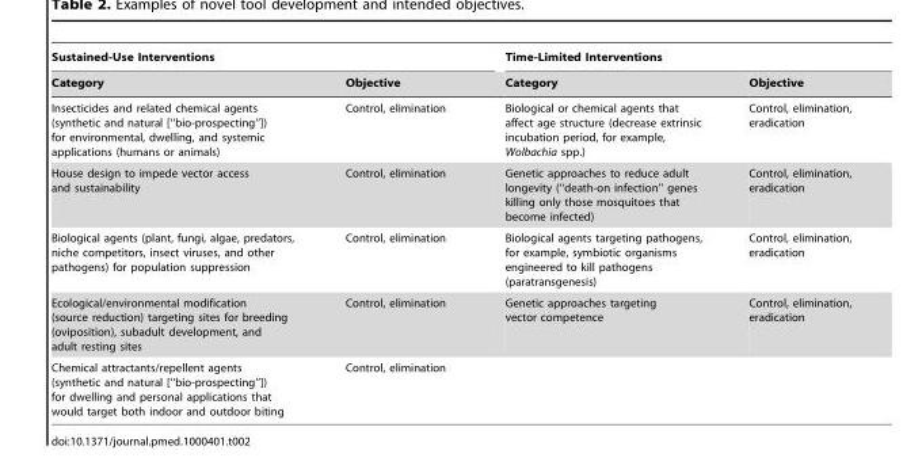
<table><thead><tr><td colspan="2">Sustained-Use Interventions</td><td colspan="2">Time-Limited Interventions</td></tr><tr><td>Category</td><td>Objective</td><td>Category</td><td>Objective</td></tr></thead><tbody><tr><td>Insecticides and related chemical agents (synthetic and natural [‘‘bio-prospecting’’]) for environmental, dwelling, and systemic applications (humans or animals)</td><td>Control, elimination</td><td>Biological or chemical agents that affect age structure (decrease extrinsic incubation period, for example, Wolbachia spp.)</td><td>Control, elimination, eradication</td></tr><tr><td>House design to impede vector access and sustainability</td><td>Control, elimination</td><td>Genetic approaches to reduce adult longevity (‘‘death-on infection’’ genes killing only those mosquitoes that become infected)</td><td>Control, elimination, eradication</td></tr><tr><td>Biological agents (plant, fungi, algae, predators, niche competitors, insect viruses, and other pathogens) for population suppression</td><td>Control, elimination</td><td>Biological agents targeting pathogens, for example, symbiotic organisms engineered to kill pathogens (paratransgenesis)</td><td>Control, elimination, eradication</td></tr><tr><td>Ecological/environmental modification (source reduction) targeting sites for breeding (oviposition), subadult development, and adult resting sites</td><td>Control, elimination</td><td>Genetic approaches targeting vector competence</td><td>Control, elimination, eradication</td></tr><tr><td>Chemical attractants/repellent agents (synthetic and natural [‘‘bio-prospecting’’]) for dwelling and personal applications that would target both indoor and outdoor biting</td><td>Control, elimination</td><td></td><td></td></tr></tbody></table>